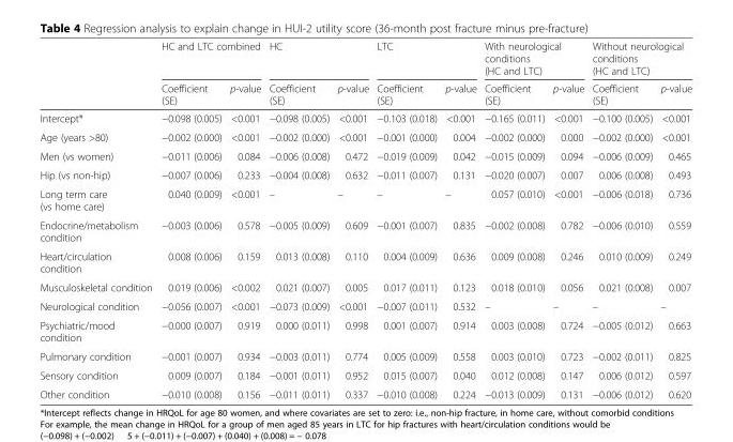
<table><thead><tr><td rowspan="2"></td><td colspan="2">HC and LTC combined</td><td colspan="2">HC</td><td colspan="2">LTC</td><td colspan="2">With neurological conditions (HC and LTC)</td><td colspan="2">Without neurological conditions (HC and LTC)</td></tr><tr><td>Coefficient (SE)</td><td>p-value</td><td>Coefficient (SE)</td><td>p-value</td><td>Coefficient (SE)</td><td>p-value</td><td>Coefficient (SE)</td><td>p-value</td><td>Coefficient (SE)</td><td>p-value</td></tr></thead><tbody><tr><td>Intercept*</td><td>−0.098 (0.005)</td><td>&lt;0.001</td><td>−0.098 (0.005)</td><td>&lt;0.001</td><td>−0.103 (0.018)</td><td>&lt;0.001</td><td>−0.165 (0.011)</td><td>&lt;0.001</td><td>−0.100 (0.005)</td><td>&lt;0.001</td></tr><tr><td>Age (years &gt;80)</td><td>−0.002 (0.000)</td><td>&lt;0.001</td><td>−0.002 (0.000)</td><td>&lt;0.001</td><td>−0.001 (0.000)</td><td>0.004</td><td>−0.002 (0.000)</td><td>0.000</td><td>−0.002 (0.000)</td><td>&lt;0.001</td></tr><tr><td>Men (vs women)</td><td>−0.011 (0.006)</td><td>0.084</td><td>−0.006 (0.008)</td><td>0.472</td><td>−0.019 (0.009)</td><td>0.042</td><td>−0.015 (0.009)</td><td>0.094</td><td>−0.006 (0.009)</td><td>0.465</td></tr><tr><td>Hip (vs non-hip)</td><td>−0.007 (0.006)</td><td>0.233</td><td>−0.004 (0.008)</td><td>0.632</td><td>−0.011 (0.007)</td><td>0.131</td><td>−0.020 (0.007)</td><td>0.007</td><td>0.006 (0.008)</td><td>0.493</td></tr><tr><td>Long term care (vs home care)</td><td>0.040 (0.009)</td><td>&lt;0.001</td><td>–</td><td>–</td><td>–</td><td>–</td><td>0.057 (0.010)</td><td>&lt;0.001</td><td>−0.006 (0.018)</td><td>0.736</td></tr><tr><td>Endocrine/metabolism condition</td><td>−0.003 (0.006)</td><td>0.578</td><td>−0.005 (0.009)</td><td>0.609</td><td>−0.001 (0.007)</td><td>0.835</td><td>−0.002 (0.008)</td><td>0.782</td><td>−0.006 (0.010)</td><td>0.559</td></tr><tr><td>Heart/circulation condition</td><td>0.008 (0.006)</td><td>0.159</td><td>0.013 (0.008)</td><td>0.110</td><td>0.004 (0.009)</td><td>0.636</td><td>0.009 (0.008)</td><td>0.246</td><td>0.010 (0.009)</td><td>0.249</td></tr><tr><td>Musculoskeletal condition</td><td>0.019 (0.006)</td><td>&lt;0.002</td><td>0.021 (0.007)</td><td>0.005</td><td>0.017 (0.011)</td><td>0.123</td><td>0.018 (0.010)</td><td>0.056</td><td>0.021 (0.008)</td><td>0.007</td></tr><tr><td>Neurological condition</td><td>−0.056 (0.007)</td><td>&lt;0.001</td><td>−0.073 (0.009)</td><td>&lt;0.001</td><td>−0.007 (0.011)</td><td>0.532</td><td>–</td><td>–</td><td>–</td><td>–</td></tr><tr><td>Psychiatric/mood condition</td><td>−0.000 (0.007)</td><td>0.919</td><td>0.000 (0.011)</td><td>0.998</td><td>0.001 (0.007)</td><td>0.914</td><td>0.003 (0.008)</td><td>0.724</td><td>−0.005 (0.012)</td><td>0.663</td></tr><tr><td>Pulmonary condition</td><td>−0.001 (0.007)</td><td>0.934</td><td>−0.003 (0.011)</td><td>0.774</td><td>0.005 (0.009)</td><td>0.558</td><td>0.003 (0.010)</td><td>0.723</td><td>−0.002 (0.011)</td><td>0.825</td></tr><tr><td>Sensory condition</td><td>0.009 (0.007)</td><td>0.184</td><td>−0.001 (0.011)</td><td>0.952</td><td>0.015 (0.007)</td><td>0.040</td><td>0.012 (0.008)</td><td>0.147</td><td>0.006 (0.012)</td><td>0.597</td></tr><tr><td>Other condition</td><td>−0.010 (0.008)</td><td>0.156</td><td>−0.011 (0.011)</td><td>0.337</td><td>−0.010 (0.008)</td><td>0.224</td><td>−0.013 (0.009)</td><td>0.131</td><td>−0.006 (0.012)</td><td>0.620</td></tr></tbody></table>